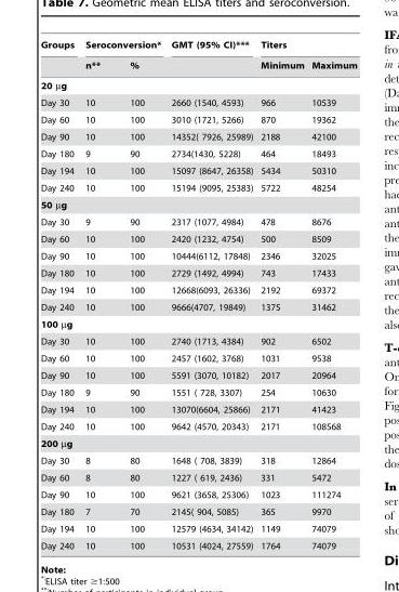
<table><thead><tr><td rowspan="2">Groups</td><td colspan="2">Seroconversion*</td><td rowspan="2">GMT (95% CI)***</td><td colspan="2">Titers</td></tr><tr><td>n**</td><td>%</td><td>Minimum</td><td>Maximum</td></tr></thead><tbody><tr><td colspan="6">20 µg</td></tr><tr><td>Day 30</td><td>10</td><td>100</td><td>2660 (1540, 4593)</td><td>966</td><td>10539</td></tr><tr><td>Day 60</td><td>10</td><td>100</td><td>3010 (1721, 5266)</td><td>870</td><td>19362</td></tr><tr><td>Day 90</td><td>10</td><td>100</td><td>14352( 7926, 25989)</td><td>2188</td><td>42100</td></tr><tr><td>Day 180</td><td>9</td><td>90</td><td>2734(1430, 5228)</td><td>464</td><td>18493</td></tr><tr><td>Day 194</td><td>10</td><td>100</td><td>15097 (8647, 26358)</td><td>5434</td><td>50310</td></tr><tr><td>Day 240</td><td>10</td><td>100</td><td>15194 (9095, 25383)</td><td>5722</td><td>48254</td></tr><tr><td colspan="6">50 µg</td></tr><tr><td>Day 30</td><td>9</td><td>90</td><td>2317 (1077, 4984)</td><td>478</td><td>8676</td></tr><tr><td>Day 60</td><td>10</td><td>100</td><td>2420 (1232, 4754)</td><td>500</td><td>8509</td></tr><tr><td>Day 90</td><td>10</td><td>100</td><td>10444(6112, 17848)</td><td>2346</td><td>32025</td></tr><tr><td>Day 180</td><td>10</td><td>100</td><td>2729 (1492, 4994)</td><td>743</td><td>17433</td></tr><tr><td>Day 194</td><td>10</td><td>100</td><td>12668(6093, 26336)</td><td>2192</td><td>69372</td></tr><tr><td>Day 240</td><td>10</td><td>100</td><td>9666(4707, 19849)</td><td>1375</td><td>31462</td></tr><tr><td colspan="6">100 µg</td></tr><tr><td>Day 30</td><td>10</td><td>100</td><td>2740 (1713, 4384)</td><td>902</td><td>6502</td></tr><tr><td>Day 60</td><td>10</td><td>100</td><td>2457 (1602, 3768)</td><td>1031</td><td>9538</td></tr><tr><td>Day 90</td><td>10</td><td>100</td><td>5591 (3070, 10182)</td><td>2017</td><td>20964</td></tr><tr><td>Day 180</td><td>9</td><td>90</td><td>1551 ( 728, 3307)</td><td>254</td><td>10630</td></tr><tr><td>Day 194</td><td>10</td><td>100</td><td>13070(6604, 25866)</td><td>2171</td><td>41423</td></tr><tr><td>Day 240</td><td>10</td><td>100</td><td>9642 (4570, 20343)</td><td>2171</td><td>108568</td></tr><tr><td colspan="6">200 µg</td></tr><tr><td>Day 30</td><td>8</td><td>80</td><td>1648 ( 708, 3839)</td><td>318</td><td>12864</td></tr><tr><td>Day 60</td><td>8</td><td>80</td><td>1227 ( 619, 2436)</td><td>331</td><td>5472</td></tr><tr><td>Day 90</td><td>10</td><td>100</td><td>9621 (3658, 25306)</td><td>1023</td><td>111274</td></tr><tr><td>Day 180</td><td>7</td><td>70</td><td>2145( 904, 5085)</td><td>365</td><td>9970</td></tr><tr><td>Day 194</td><td>10</td><td>100</td><td>12579 (4634, 34142)</td><td>1149</td><td>74079</td></tr><tr><td>Day 240</td><td>10</td><td>100</td><td>10531 (4024, 27559)</td><td>1764</td><td>74079</td></tr></tbody></table>